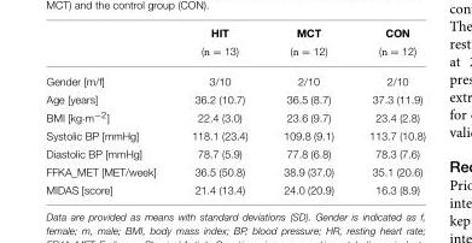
<table><thead><tr><td></td><td>(n = 13)</td><td>(n = 12)</td><td>(n = 12)</td></tr></thead><tbody><tr><td>Gender [m/f]</td><td>3/10</td><td>2/10</td><td>2/10</td></tr><tr><td>Age [years]</td><td>36.2 (10.7)</td><td>36.5 (8.7)</td><td>37.3 (11.9)</td></tr><tr><td>BMI [kg·m<sup>−2</sup>]</td><td>22.4 (3.0)</td><td>23.6 (9.7)</td><td>23.4 (2.8)</td></tr><tr><td>Systolic BP [mmHg]</td><td>118.1 (23.4)</td><td>109.8 (9.1)</td><td>113.7 (10.8)</td></tr><tr><td>Diastolic BP [mmHg]</td><td>78.7 (5.9)</td><td>77.8 (6.8)</td><td>78.3 (7.6)</td></tr><tr><td>FFKA_MET [MET/week]</td><td>36.5 (50.8)</td><td>38.9 (37.0)</td><td>35.1 (20.6)</td></tr><tr><td>MIDAS [score]</td><td>21.4 (13.4)</td><td>24.0 (20.9)</td><td>16.3 (8.9)</td></tr></tbody></table>